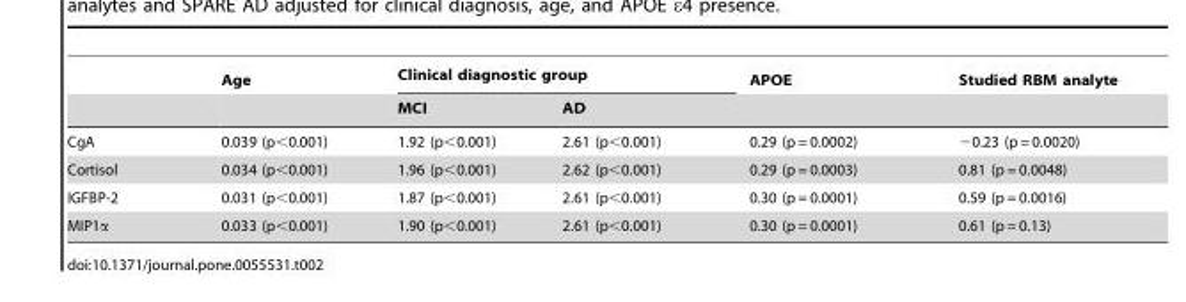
<table><thead><tr><td rowspan="2"></td><td rowspan="2">Age</td><td colspan="2">Clinical diagnostic group</td><td rowspan="2">APOE</td><td rowspan="2">Studied RBM analyte</td></tr><tr><td>MCI</td><td>AD</td></tr></thead><tbody><tr><td>CgA</td><td>0.039 (p&lt;0.001)</td><td>1.92 (p&lt;0.001)</td><td>2.61 (p&lt;0.001)</td><td>0.29 (p = 0.0002)</td><td>−0.23 (p = 0.0020)</td></tr><tr><td>Cortisol</td><td>0.034 (p&lt;0.001)</td><td>1.96 (p&lt;0.001)</td><td>2.62 (p&lt;0.001)</td><td>0.29 (p = 0.0003)</td><td>0.81 (p = 0.0048)</td></tr><tr><td>IGFBP-2</td><td>0.031 (p&lt;0.001)</td><td>1.87 (p&lt;0.001)</td><td>2.61 (p&lt;0.001)</td><td>0.30 (p = 0.0001)</td><td>0.59 (p = 0.0016)</td></tr><tr><td>MIP1α</td><td>0.033 (p&lt;0.001)</td><td>1.90 (p&lt;0.001)</td><td>2.61 (p&lt;0.001)</td><td>0.30 (p = 0.0001)</td><td>0.61 (p = 0.13)</td></tr></tbody></table>